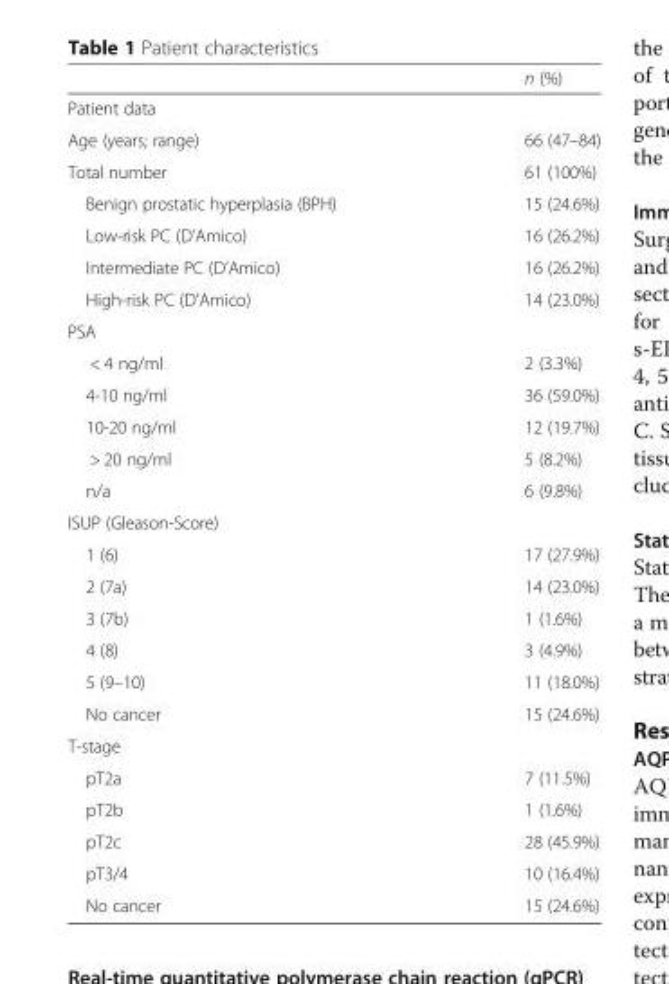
<table><thead><tr><td></td><td>n (%)</td></tr></thead><tbody><tr><td colspan="2">Patient data</td></tr><tr><td>Age (years; range)</td><td>66 (47–84)</td></tr><tr><td>Total number</td><td>61 (100%)</td></tr><tr><td>Benign prostatic hyperplasia (BPH)</td><td>15 (24.6%)</td></tr><tr><td>Low-risk PC (D’Amico)</td><td>16 (26.2%)</td></tr><tr><td>Intermediate PC (D’Amico)</td><td>16 (26.2%)</td></tr><tr><td>High-risk PC (D’Amico)</td><td>14 (23.0%)</td></tr><tr><td colspan="2">PSA</td></tr><tr><td>&lt; 4 ng/ml</td><td>2 (3.3%)</td></tr><tr><td>4-10 ng/ml</td><td>36 (59.0%)</td></tr><tr><td>10-20 ng/ml</td><td>12 (19.7%)</td></tr><tr><td>&gt; 20 ng/ml</td><td>5 (8.2%)</td></tr><tr><td>n/a</td><td>6 (9.8%)</td></tr><tr><td colspan="2">ISUP (Gleason-Score)</td></tr><tr><td>1 (6)</td><td>17 (27.9%)</td></tr><tr><td>2 (7a)</td><td>14 (23.0%)</td></tr><tr><td>3 (7b)</td><td>1 (1.6%)</td></tr><tr><td>4 (8)</td><td>3 (4.9%)</td></tr><tr><td>5 (9–10)</td><td>11 (18.0%)</td></tr><tr><td>No cancer</td><td>15 (24.6%)</td></tr><tr><td colspan="2">T-stage</td></tr><tr><td>pT2a</td><td>7 (11.5%)</td></tr><tr><td>pT2b</td><td>1 (1.6%)</td></tr><tr><td>pT2c</td><td>28 (45.9%)</td></tr><tr><td>pT3/4</td><td>10 (16.4%)</td></tr><tr><td>No cancer</td><td>15 (24.6%)</td></tr></tbody></table>